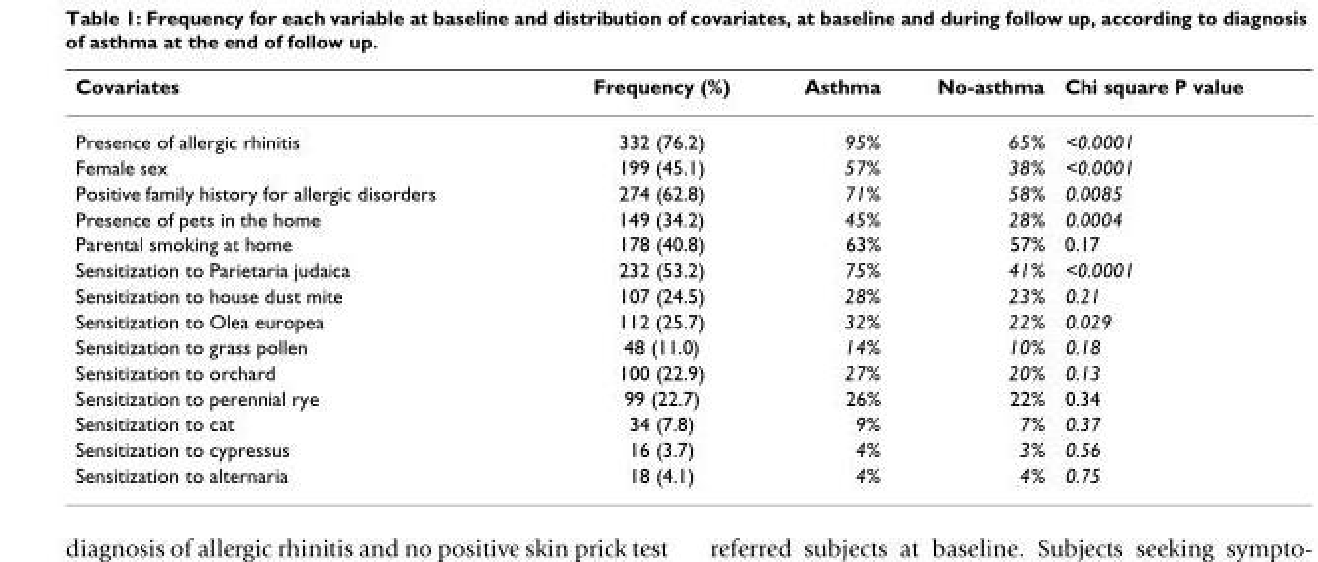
<table><thead><tr><td>Covariates</td><td>Frequency (%)</td><td>Asthma</td><td>No-asthma</td><td>Chi square P value</td></tr></thead><tbody><tr><td>Presence of allergic rhinitis</td><td>332 (76.2)</td><td>95%</td><td>65%</td><td>&lt;0.0001</td></tr><tr><td>Female sex</td><td>199 (45.1)</td><td>57%</td><td>38%</td><td>&lt;0.0001</td></tr><tr><td>Positive family history for allergic disorders</td><td>274 (62.8)</td><td>71%</td><td>58%</td><td>0.0085</td></tr><tr><td>Presence of pets in the home</td><td>149 (34.2)</td><td>45%</td><td>28%</td><td>0.0004</td></tr><tr><td>Parental smoking at home</td><td>178 (40.8)</td><td>63%</td><td>57%</td><td>0.17</td></tr><tr><td>Sensitization to Parietaria judaica</td><td>232 (53.2)</td><td>75%</td><td>41%</td><td>&lt;0.0001</td></tr><tr><td>Sensitization to house dust mite</td><td>107 (24.5)</td><td>28%</td><td>23%</td><td>0.21</td></tr><tr><td>Sensitization to Olea europea</td><td>112 (25.7)</td><td>32%</td><td>22%</td><td>0.029</td></tr><tr><td>Sensitization to grass pollen</td><td>48 (11.0)</td><td>14%</td><td>10%</td><td>0.18</td></tr><tr><td>Sensitization to orchard</td><td>100 (22.9)</td><td>27%</td><td>20%</td><td>0.13</td></tr><tr><td>Sensitization to perennial rye</td><td>99 (22.7)</td><td>26%</td><td>22%</td><td>0.34</td></tr><tr><td>Sensitization to cat</td><td>34 (7.8)</td><td>9%</td><td>7%</td><td>0.37</td></tr><tr><td>Sensitization to cypressus</td><td>16 (3.7)</td><td>4%</td><td>3%</td><td>0.56</td></tr><tr><td>Sensitization to alternaria</td><td>18 (4.1)</td><td>4%</td><td>4%</td><td>0.75</td></tr></tbody></table>